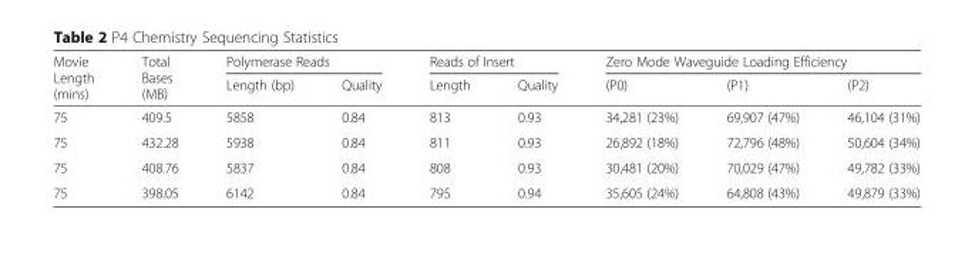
<table><thead><tr><td rowspan="2">Movie Length (mins)</td><td rowspan="2">Total Bases (MB)</td><td colspan="2">Polymerase Reads</td><td colspan="2">Reads of Insert</td><td colspan="3">Zero Mode Waveguide Loading Efficiency</td></tr><tr><td>Length (bp)</td><td>Quality</td><td>Length</td><td>Quality</td><td>(P0)</td><td>(P1)</td><td>(P2)</td></tr></thead><tbody><tr><td>75</td><td>409.5</td><td>5858</td><td>0.84</td><td>813</td><td>0.93</td><td>34,281 (23%)</td><td>69,907 (47%)</td><td>46,104 (31%)</td></tr><tr><td>75</td><td>432.28</td><td>5938</td><td>0.84</td><td>811</td><td>0.93</td><td>26,892 (18%)</td><td>72,796 (48%)</td><td>50,604 (34%)</td></tr><tr><td>75</td><td>408.76</td><td>5837</td><td>0.84</td><td>808</td><td>0.93</td><td>30,481 (20%)</td><td>70,029 (47%)</td><td>49,782 (33%)</td></tr><tr><td>75</td><td>398.05</td><td>6142</td><td>0.84</td><td>795</td><td>0.94</td><td>35,605 (24%)</td><td>64,808 (43%)</td><td>49,879 (33%)</td></tr></tbody></table>